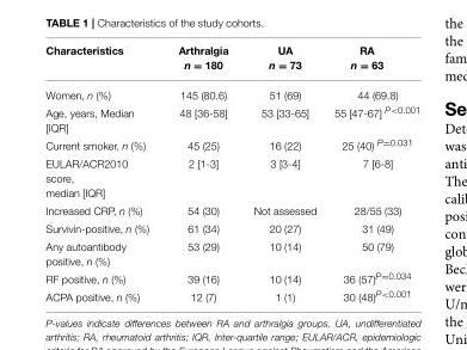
<table><thead><tr><td>Characteristics</td><td>Arthralgia n = 180</td><td>UA n = 73</td><td>RA n = 63</td></tr></thead><tbody><tr><td>Women, n (%)</td><td>145 (80.6)</td><td>51 (69)</td><td>44 (69.8)</td></tr><tr><td>Age, years, Median [IQR]</td><td>48 [36-58]</td><td>53 [33-65]</td><td>55 [47-67] P&lt;0.001</td></tr><tr><td>Current smoker, n (%)</td><td>45 (25)</td><td>16 (22)</td><td>25 (40) P=0.031</td></tr><tr><td>EULAR/ACR2010 score, median [IQR]</td><td>2 [1-3]</td><td>3 [3-4]</td><td>7 [6-8]</td></tr><tr><td>Increased CRP, n (%)</td><td>54 (30)</td><td>Not assessed</td><td>28/55 (33)</td></tr><tr><td>Survivin-positive, n (%)</td><td>61 (34)</td><td>20 (27)</td><td>31 (49)</td></tr><tr><td>Any autoantibody positive, n (%)</td><td>53 (29)</td><td>10 (14)</td><td>50 (79)</td></tr><tr><td>RF positive, n (%)</td><td>39 (16)</td><td>10 (14)</td><td>36 (57)P=0.034</td></tr><tr><td>ACPA positive, n (%)</td><td>12 (7)</td><td>1 (1)</td><td>30 (48)P&lt;0.001</td></tr></tbody></table>